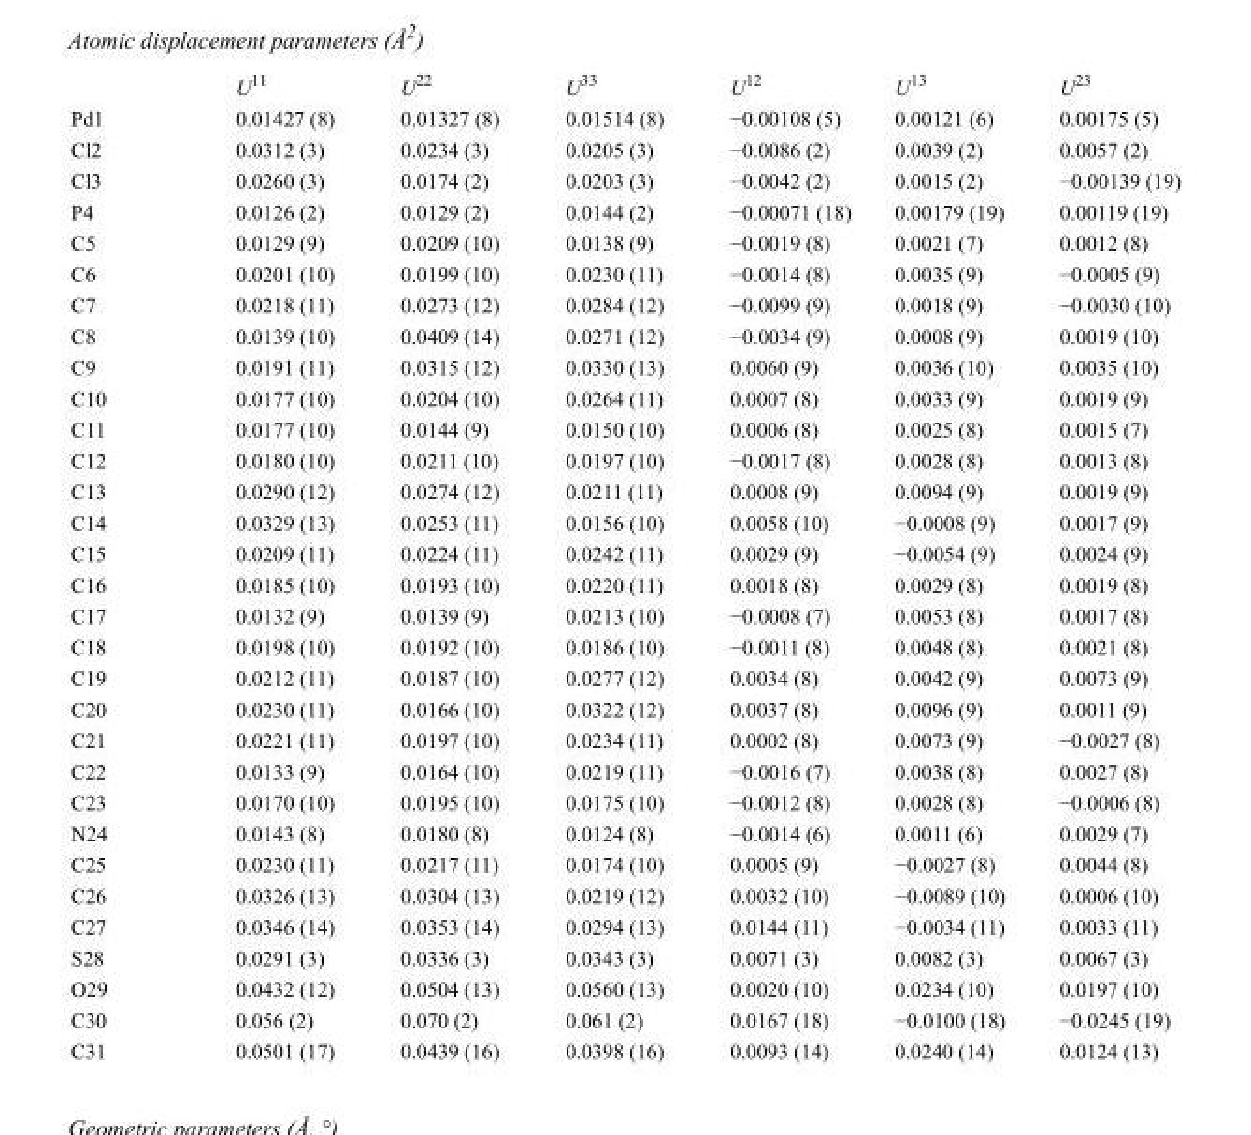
<table><thead><tr><td></td><td>U<sup>11</sup></td><td>U<sup>22</sup></td><td>U<sup>33</sup></td><td>U<sup>12</sup></td><td>U<sup>13</sup></td><td>U<sup>23</sup></td></tr></thead><tbody><tr><td>Pd1</td><td>0.01427 (8)</td><td>0.01327 (8)</td><td>0.01514 (8)</td><td>−0.00108 (5)</td><td>0.00121 (6)</td><td>0.00175 (5)</td></tr><tr><td>Cl2</td><td>0.0312 (3)</td><td>0.0234 (3)</td><td>0.0205 (3)</td><td>−0.0086 (2)</td><td>0.0039 (2)</td><td>0.0057 (2)</td></tr><tr><td>Cl3</td><td>0.0260 (3)</td><td>0.0174 (2)</td><td>0.0203 (3)</td><td>−0.0042 (2)</td><td>0.0015 (2)</td><td>−0.00139 (19)</td></tr><tr><td>P4</td><td>0.0126 (2)</td><td>0.0129 (2)</td><td>0.0144 (2)</td><td>−0.00071 (18)</td><td>0.00179 (19)</td><td>0.00119 (19)</td></tr><tr><td>C5</td><td>0.0129 (9)</td><td>0.0209 (10)</td><td>0.0138 (9)</td><td>−0.0019 (8)</td><td>0.0021 (7)</td><td>0.0012 (8)</td></tr><tr><td>C6</td><td>0.0201 (10)</td><td>0.0199 (10)</td><td>0.0230 (11)</td><td>−0.0014 (8)</td><td>0.0035 (9)</td><td>−0.0005 (9)</td></tr><tr><td>C7</td><td>0.0218 (11)</td><td>0.0273 (12)</td><td>0.0284 (12)</td><td>−0.0099 (9)</td><td>0.0018 (9)</td><td>−0.0030 (10)</td></tr><tr><td>C8</td><td>0.0139 (10)</td><td>0.0409 (14)</td><td>0.0271 (12)</td><td>−0.0034 (9)</td><td>0.0008 (9)</td><td>0.0019 (10)</td></tr><tr><td>C9</td><td>0.0191 (11)</td><td>0.0315 (12)</td><td>0.0330 (13)</td><td>0.0060 (9)</td><td>0.0036 (10)</td><td>0.0035 (10)</td></tr><tr><td>C10</td><td>0.0177 (10)</td><td>0.0204 (10)</td><td>0.0264 (11)</td><td>0.0007 (8)</td><td>0.0033 (9)</td><td>0.0019 (9)</td></tr><tr><td>C11</td><td>0.0177 (10)</td><td>0.0144 (9)</td><td>0.0150 (10)</td><td>0.0006 (8)</td><td>0.0025 (8)</td><td>0.0015 (7)</td></tr><tr><td>C12</td><td>0.0180 (10)</td><td>0.0211 (10)</td><td>0.0197 (10)</td><td>−0.0017 (8)</td><td>0.0028 (8)</td><td>0.0013 (8)</td></tr><tr><td>C13</td><td>0.0290 (12)</td><td>0.0274 (12)</td><td>0.0211 (11)</td><td>0.0008 (9)</td><td>0.0094 (9)</td><td>0.0019 (9)</td></tr><tr><td>C14</td><td>0.0329 (13)</td><td>0.0253 (11)</td><td>0.0156 (10)</td><td>0.0058 (10)</td><td>−0.0008 (9)</td><td>0.0017 (9)</td></tr><tr><td>C15</td><td>0.0209 (11)</td><td>0.0224 (11)</td><td>0.0242 (11)</td><td>0.0029 (9)</td><td>−0.0054 (9)</td><td>0.0024 (9)</td></tr><tr><td>C16</td><td>0.0185 (10)</td><td>0.0193 (10)</td><td>0.0220 (11)</td><td>0.0018 (8)</td><td>0.0029 (8)</td><td>0.0019 (8)</td></tr><tr><td>C17</td><td>0.0132 (9)</td><td>0.0139 (9)</td><td>0.0213 (10)</td><td>−0.0008 (7)</td><td>0.0053 (8)</td><td>0.0017 (8)</td></tr><tr><td>C18</td><td>0.0198 (10)</td><td>0.0192 (10)</td><td>0.0186 (10)</td><td>−0.0011 (8)</td><td>0.0048 (8)</td><td>0.0021 (8)</td></tr><tr><td>C19</td><td>0.0212 (11)</td><td>0.0187 (10)</td><td>0.0277 (12)</td><td>0.0034 (8)</td><td>0.0042 (9)</td><td>0.0073 (9)</td></tr><tr><td>C20</td><td>0.0230 (11)</td><td>0.0166 (10)</td><td>0.0322 (12)</td><td>0.0037 (8)</td><td>0.0096 (9)</td><td>0.0011 (9)</td></tr><tr><td>C21</td><td>0.0221 (11)</td><td>0.0197 (10)</td><td>0.0234 (11)</td><td>0.0002 (8)</td><td>0.0073 (9)</td><td>−0.0027 (8)</td></tr><tr><td>C22</td><td>0.0133 (9)</td><td>0.0164 (10)</td><td>0.0219 (11)</td><td>−0.0016 (7)</td><td>0.0038 (8)</td><td>0.0027 (8)</td></tr><tr><td>C23</td><td>0.0170 (10)</td><td>0.0195 (10)</td><td>0.0175 (10)</td><td>−0.0012 (8)</td><td>0.0028 (8)</td><td>−0.0006 (8)</td></tr><tr><td>N24</td><td>0.0143 (8)</td><td>0.0180 (8)</td><td>0.0124 (8)</td><td>−0.0014 (6)</td><td>0.0011 (6)</td><td>0.0029 (7)</td></tr><tr><td>C25</td><td>0.0230 (11)</td><td>0.0217 (11)</td><td>0.0174 (10)</td><td>0.0005 (9)</td><td>−0.0027 (8)</td><td>0.0044 (8)</td></tr><tr><td>C26</td><td>0.0326 (13)</td><td>0.0304 (13)</td><td>0.0219 (12)</td><td>0.0032 (10)</td><td>−0.0089 (10)</td><td>0.0006 (10)</td></tr><tr><td>C27</td><td>0.0346 (14)</td><td>0.0353 (14)</td><td>0.0294 (13)</td><td>0.0144 (11)</td><td>−0.0034 (11)</td><td>0.0033 (11)</td></tr><tr><td>S28</td><td>0.0291 (3)</td><td>0.0336 (3)</td><td>0.0343 (3)</td><td>0.0071 (3)</td><td>0.0082 (3)</td><td>0.0067 (3)</td></tr><tr><td>O29</td><td>0.0432 (12)</td><td>0.0504 (13)</td><td>0.0560 (13)</td><td>0.0020 (10)</td><td>0.0234 (10)</td><td>0.0197 (10)</td></tr><tr><td>C30</td><td>0.056 (2)</td><td>0.070 (2)</td><td>0.061 (2)</td><td>0.0167 (18)</td><td>−0.0100 (18)</td><td>−0.0245 (19)</td></tr><tr><td>C31</td><td>0.0501 (17)</td><td>0.0439 (16)</td><td>0.0398 (16)</td><td>0.0093 (14)</td><td>0.0240 (14)</td><td>0.0124 (13)</td></tr></tbody></table>